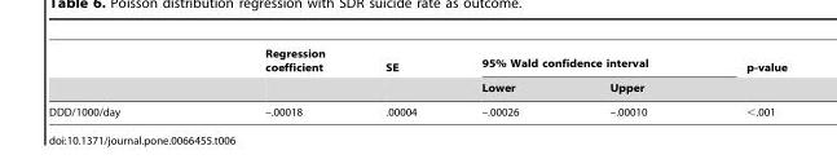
<table><thead><tr><td rowspan="2"></td><td rowspan="2">Regression coefficient</td><td rowspan="2">SE</td><td colspan="2">95% Wald confidence interval</td><td rowspan="2">p-value</td></tr><tr><td>Lower</td><td>Upper</td></tr></thead><tbody><tr><td>DDD/1000/day</td><td>–.00018</td><td>.00004</td><td>–.00026</td><td>–.00010</td><td>&lt;.001</td></tr></tbody></table>